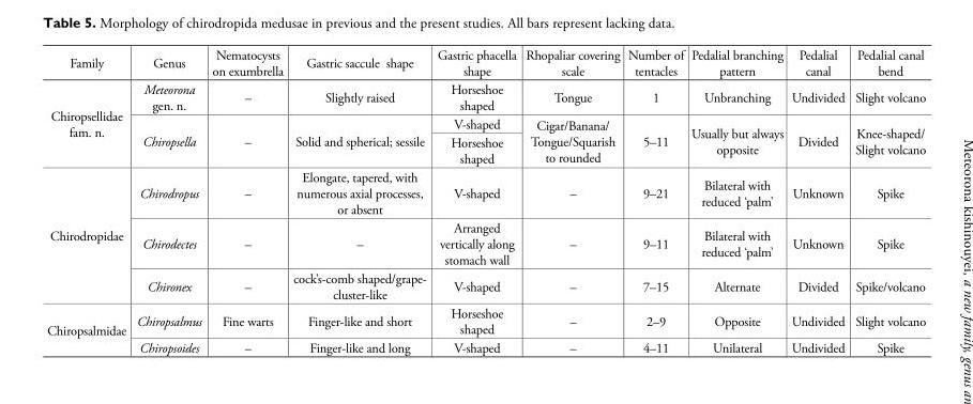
<table><tbody><tr><td>Family</td><td>Genus</td><td>Nematocysts on exumbrella</td><td>Gastric saccule shape</td><td>Gastric phacella shape</td><td>Rhopaliar covering scale</td><td>Number of tentacles</td><td>Pedalial branching pattern</td><td>Pedalial canal</td><td>Pedalial canal bend</td></tr><tr><td rowspan="3">Chiropsellidae fam. n.</td><td>Meteorona gen. n.</td><td>–</td><td>Slightly raised</td><td>Horseshoe shaped</td><td>Tongue</td><td>1</td><td>Unbranching</td><td>Undivided</td><td>Slight volcano</td></tr><tr><td rowspan="2">Chiropsella</td><td rowspan="2">–</td><td rowspan="2">Solid and spherical; sessile</td><td>V-shaped</td><td rowspan="2">Cigar/Banana/ Tongue/Squarish to rounded</td><td rowspan="2">5–11</td><td rowspan="2">Usually but always opposite</td><td rowspan="2">Divided</td><td rowspan="2">Knee-shaped/ Slight volcano</td></tr><tr><td>Horseshoe shaped</td></tr><tr><td rowspan="3">Chirodropidae</td><td>Chirodropus</td><td>–</td><td>Elongate, tapered, with numerous axial processes, or absent</td><td>V-shaped</td><td>–</td><td>9–21</td><td>Bilateral with reduced ‘palm’</td><td>Unknown</td><td>Spike</td></tr><tr><td>Chirodectes</td><td>–</td><td>–</td><td>Arranged vertically along stomach wall</td><td>–</td><td>9–11</td><td>Bilateral with reduced ‘palm’</td><td>Unknown</td><td>Spike</td></tr><tr><td>Chironex</td><td>–</td><td>cock’s-comb shaped/grape- cluster-like</td><td>V-shaped</td><td>–</td><td>7–15</td><td>Alternate</td><td>Divided</td><td>Spike/volcano</td></tr><tr><td rowspan="2">Chiropsalmidae</td><td>Chiropsalmus</td><td>Fine warts</td><td>Finger-like and short</td><td>Horseshoe shaped</td><td>–</td><td>2–9</td><td>Opposite</td><td>Undivided</td><td>Slight volcano</td></tr><tr><td>Chiropsoides</td><td>–</td><td>Finger-like and long</td><td>V-shaped</td><td>–</td><td>4–11</td><td>Unilateral</td><td>Undivided</td><td>Spike</td></tr></tbody></table>